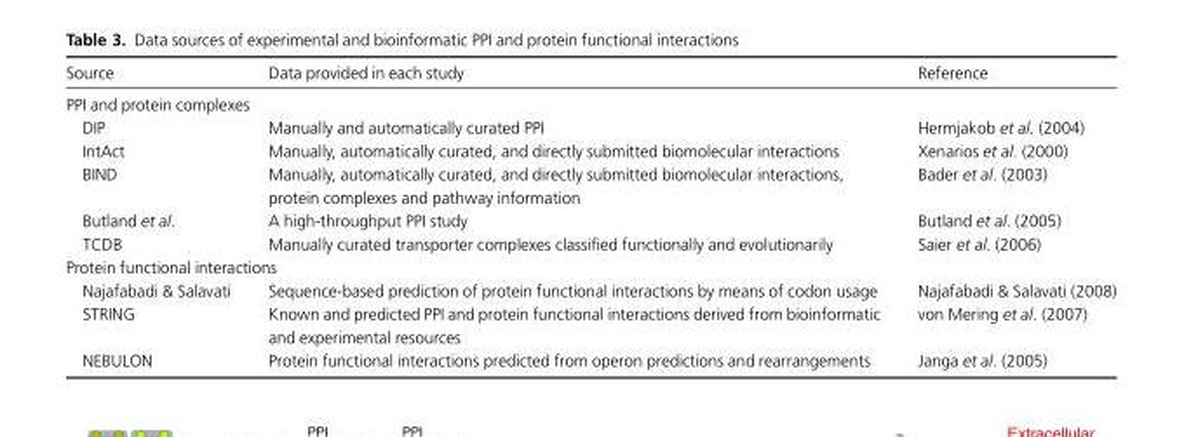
<table><thead><tr><td>Source</td><td>Data provided in each study</td><td>Reference</td></tr></thead><tbody><tr><td colspan="3">PPI and protein complexes</td></tr><tr><td>DIP</td><td>Manually and automatically curated PPI</td><td>Hermjakob et al. (2004)</td></tr><tr><td>IntAct</td><td>Manually, automatically curated, and directly submitted biomolecular interactions</td><td>Xenarios et al. (2000)</td></tr><tr><td>BIND</td><td>Manually, automatically curated, and directly submitted biomolecular interactions, protein complexes and pathway information</td><td>Bader et al. (2003)</td></tr><tr><td>Butland et al.</td><td>A high-throughput PPI study</td><td>Butland et al. (2005)</td></tr><tr><td>TCDB</td><td>Manually curated transporter complexes classified functionally and evolutionarily</td><td>Saier et al. (2006)</td></tr><tr><td colspan="3">Protein functional interactions</td></tr><tr><td>Najafabadi &amp; Salavati</td><td>Sequence-based prediction of protein functional interactions by means of codon usage</td><td>Najafabadi &amp; Salavati (2008)</td></tr><tr><td>STRING</td><td>Known and predicted PPI and protein functional interactions derived from bioinformatic and experimental resources</td><td>von Mering et al. (2007)</td></tr><tr><td>NEBULON</td><td>Protein functional interactions predicted from operon predictions and rearrangements</td><td>Janga et al. (2005)</td></tr></tbody></table>